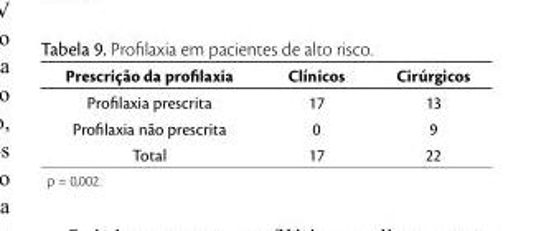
<table><thead><tr><td>Prescrição da profilaxia</td><td>Clínicos</td><td>Cirúrgicos</td></tr></thead><tbody><tr><td>Profilaxia prescrita</td><td>17</td><td>13</td></tr><tr><td>Profilaxia não prescrita</td><td>0</td><td>9</td></tr><tr><td>Total</td><td>17</td><td>22</td></tr></tbody></table>